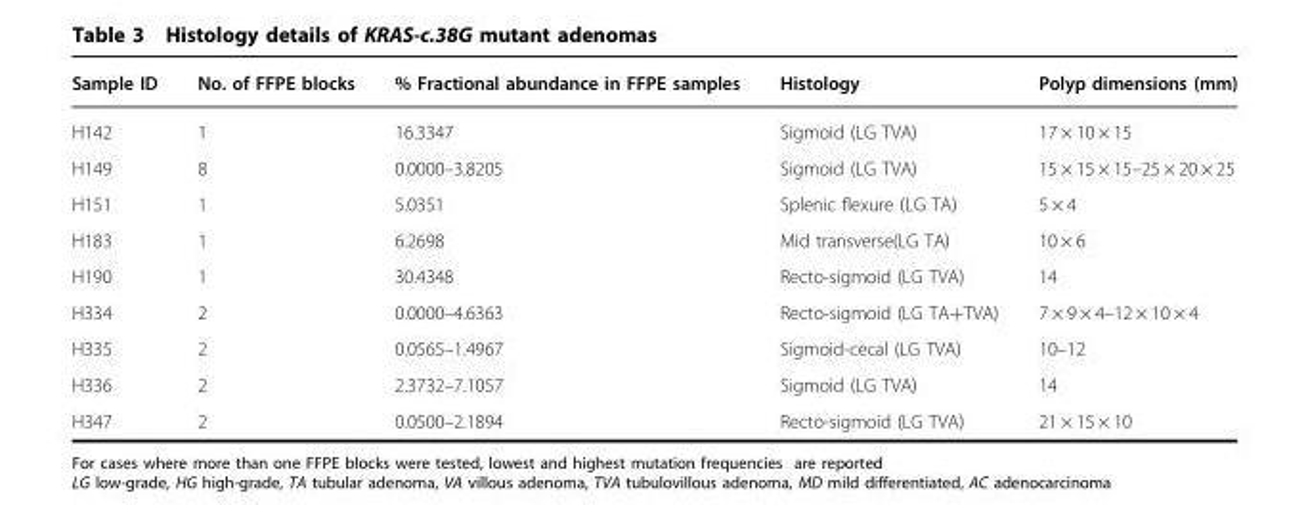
<table><thead><tr><td>Sample ID</td><td>No. of FFPE blocks</td><td>% Fractional abundance in FFPE samples</td><td>Histology</td><td>Polyp dimensions (mm)</td></tr></thead><tbody><tr><td>H142</td><td>1</td><td>16.3347</td><td>Sigmoid (LG TVA)</td><td>17 × 10 × 15</td></tr><tr><td>H149</td><td>8</td><td>0.0000–3.8205</td><td>Sigmoid (LG TVA)</td><td>15 × 15 × 15–25 × 20 × 25</td></tr><tr><td>H151</td><td>1</td><td>5.0351</td><td>Splenic flexure (LG TA)</td><td>5 × 4</td></tr><tr><td>H183</td><td>1</td><td>6.2698</td><td>Mid transverse(LG TA)</td><td>10 × 6</td></tr><tr><td>H190</td><td>1</td><td>30.4348</td><td>Recto-sigmoid (LG TVA)</td><td>14</td></tr><tr><td>H334</td><td>2</td><td>0.0000–4.6363</td><td>Recto-sigmoid (LG TA+TVA)</td><td>7 × 9 × 4–12 × 10 × 4</td></tr><tr><td>H335</td><td>2</td><td>0.0565–1.4967</td><td>Sigmoid-cecal (LG TVA)</td><td>10–12</td></tr><tr><td>H336</td><td>2</td><td>2.3732–7.1057</td><td>Sigmoid (LG TVA)</td><td>14</td></tr><tr><td>H347</td><td>2</td><td>0.0500–2.1894</td><td>Recto-sigmoid (LG TVA)</td><td>21 × 15 × 10</td></tr></tbody></table>